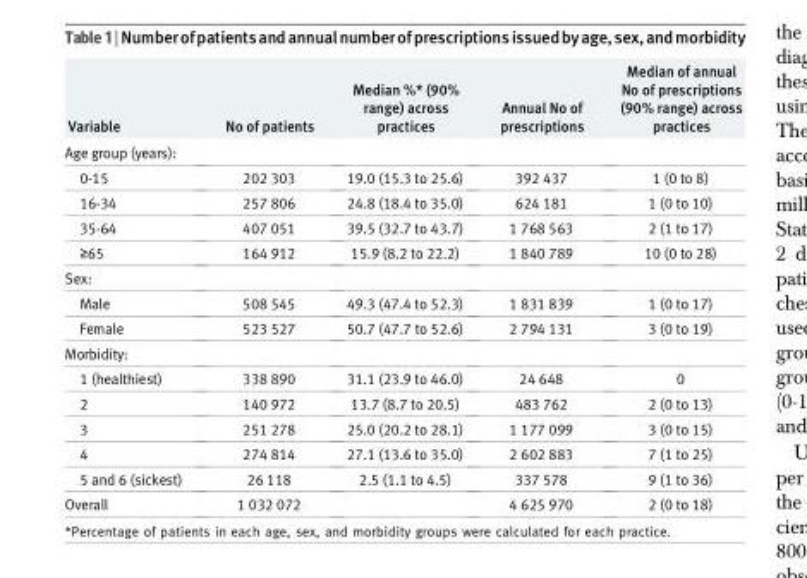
<table><thead><tr><td>Variable</td><td>No of patients</td><td>Median %* (90% range) across practices</td><td>Annual No of prescriptions</td><td>Median of annual No of prescriptions (90% range) across practices</td></tr></thead><tbody><tr><td colspan="5">Age group (years):</td></tr><tr><td>0-15</td><td>202 303</td><td>19.0 (15.3 to 25.6)</td><td>392 437</td><td>1 (0 to 8)</td></tr><tr><td>16-34</td><td>257 806</td><td>24.8 (18.4 to 35.0)</td><td>624 181</td><td>1 (0 to 10)</td></tr><tr><td>35-64</td><td>407 051</td><td>39.5 (32.7 to 43.7)</td><td>1 768 563</td><td>2 (1 to 17)</td></tr><tr><td>≥65</td><td>164 912</td><td>15.9 (8.2 to 22.2)</td><td>1 840 789</td><td>10 (0 to 28)</td></tr><tr><td colspan="5">Sex:</td></tr><tr><td>Male</td><td>508 545</td><td>49.3 (47.4 to 52.3)</td><td>1 831 839</td><td>1 (0 to 17)</td></tr><tr><td>Female</td><td>523 527</td><td>50.7 (47.7 to 52.6)</td><td>2 794 131</td><td>3 (0 to 19)</td></tr><tr><td colspan="5">Morbidity:</td></tr><tr><td>1 (healthiest)</td><td>338 890</td><td>31.1 (23.9 to 46.0)</td><td>24 648</td><td>0</td></tr><tr><td>2</td><td>140 972</td><td>13.7 (8.7 to 20.5)</td><td>483 762</td><td>2 (0 to 13)</td></tr><tr><td>3</td><td>251 278</td><td>25.0 (20.2 to 28.1)</td><td>1 177 099</td><td>3 (0 to 15)</td></tr><tr><td>4</td><td>274 814</td><td>27.1 (13.6 to 35.0)</td><td>2 602 883</td><td>7 (1 to 25)</td></tr><tr><td>5 and 6 (sickest)</td><td>26 118</td><td>2.5 (1.1 to 4.5)</td><td>337 578</td><td>9 (1 to 36)</td></tr><tr><td>Overall</td><td>1 032 072</td><td></td><td>4 625 970</td><td>2 (0 to 18)</td></tr></tbody></table>